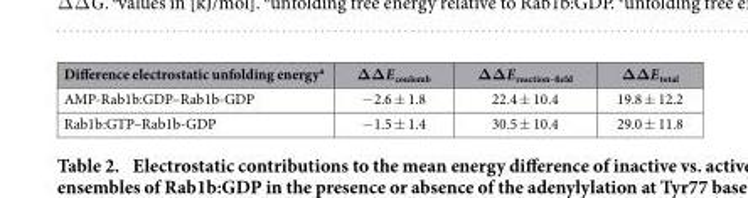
<table><thead><tr><td>Difference electrostatic unfolding energy<sup>a</sup></td><td>ΔΔΕ <sub>coulomb</sub></td><td>ΔΔΕ <sub>reaction–field</sub></td><td>ΔΔΕ <sub>total</sub></td></tr></thead><tbody><tr><td>AMP-Rab1b:GDP–Rab1b-GDP</td><td>− 2.6 ± 1.8</td><td>22.4 ± 10.4</td><td>19.8 ± 12.2</td></tr><tr><td>Rab1b:GTP–Rab1b-GDP</td><td>− 1.5 ± 1.4</td><td>30.5 ± 10.4</td><td>29.0 ± 11.8</td></tr></tbody></table>